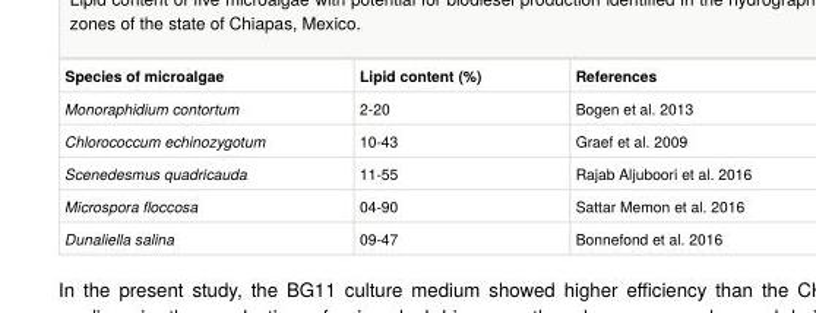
<table><tbody><tr><td>Species of microalgae</td><td>Lipid content (%)</td><td>References</td></tr><tr><td>Monoraphidium contortum</td><td>2-20</td><td>Bogen et al. 2013</td></tr><tr><td>Chlorococcum echinozygotum</td><td>10-43</td><td>Graef et al. 2009</td></tr><tr><td>Scenedesmus quadricauda</td><td>11-55</td><td>Rajab Aljuboori et al. 2016</td></tr><tr><td>Microspora floccosa</td><td>04-90</td><td>Sattar Memon et al. 2016</td></tr><tr><td>Dunaliella salina</td><td>09-47</td><td>Bonnefond et al. 2016</td></tr></tbody></table>